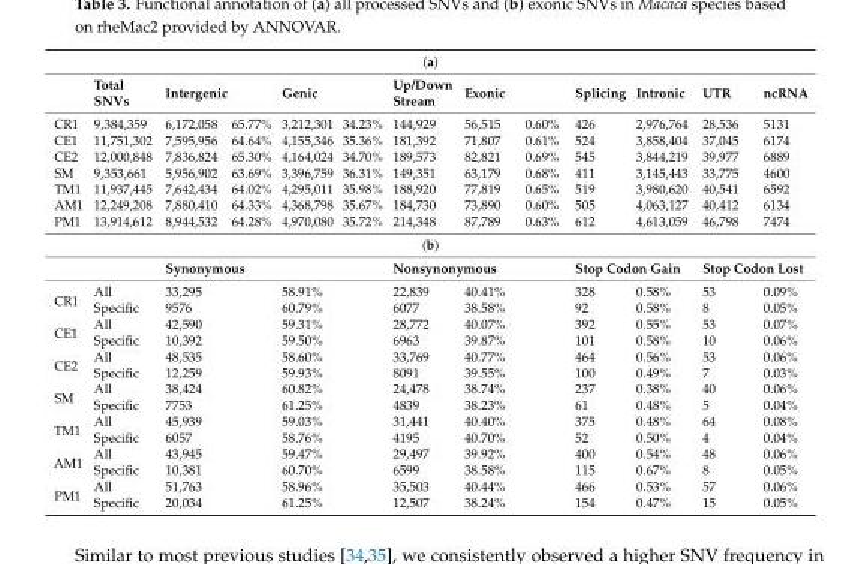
<table><tbody><tr><td colspan="13">(a)</td></tr><tr><td></td><td>Total SNVs</td><td colspan="2">Intergenic</td><td colspan="2">Genic</td><td>Up/Down Stream</td><td colspan="2">Exonic</td><td>Splicing</td><td>Intronic</td><td>UTR</td><td>ncRNA</td></tr><tr><td>CR1</td><td>9,384,359</td><td>6,172,058</td><td>65.77%</td><td>3,212,301</td><td>34.23%</td><td>144,929</td><td>56,515</td><td>0.60%</td><td>426</td><td>2,976,764</td><td>28,536</td><td>5131</td></tr><tr><td>CE1</td><td>11,751,302</td><td>7,595,956</td><td>64.64%</td><td>4,155,346</td><td>35.36%</td><td>181,392</td><td>71,807</td><td>0.61%</td><td>524</td><td>3,858,404</td><td>37,045</td><td>6174</td></tr><tr><td>CE2</td><td>12,000,848</td><td>7,836,824</td><td>65.30%</td><td>4,164,024</td><td>34.70%</td><td>189,573</td><td>82,821</td><td>0.69%</td><td>545</td><td>3,844,219</td><td>39,977</td><td>6889</td></tr><tr><td>SM</td><td>9,353,661</td><td>5,956,902</td><td>63.69%</td><td>3,396,759</td><td>36.31%</td><td>149,351</td><td>63,179</td><td>0.68%</td><td>411</td><td>3,145,443</td><td>33,775</td><td>4600</td></tr><tr><td>TM1</td><td>11,937,445</td><td>7,642,434</td><td>64.02%</td><td>4,295,011</td><td>35.98%</td><td>188,920</td><td>77,819</td><td>0.65%</td><td>519</td><td>3,980,620</td><td>40,541</td><td>6592</td></tr><tr><td>AM1</td><td>12,249,208</td><td>7,880,410</td><td>64.33%</td><td>4,368,798</td><td>35.67%</td><td>184,730</td><td>73,890</td><td>0.60%</td><td>505</td><td>4,063,127</td><td>40,412</td><td>6134</td></tr><tr><td>PM1</td><td>13,914,612</td><td>8,944,532</td><td>64.28%</td><td>4,970,080</td><td>35.72%</td><td>214,348</td><td>87,789</td><td>0.63%</td><td>612</td><td>4,613,059</td><td>46,798</td><td>7474</td></tr><tr><td colspan="13">(b)</td></tr><tr><td colspan="2"></td><td colspan="4">Synonymous</td><td colspan="3">Nonsynonymous</td><td colspan="2">Stop Codon Gain</td><td colspan="2">Stop Codon Lost</td></tr><tr><td rowspan="2">CR1</td><td>All</td><td colspan="2">33,295</td><td colspan="2">58.91%</td><td>22,839</td><td colspan="2">40.41%</td><td>328</td><td>0.58%</td><td>53</td><td>0.09%</td></tr><tr><td>Specific</td><td colspan="2">9576</td><td colspan="2">60.79%</td><td>6077</td><td colspan="2">38.58%</td><td>92</td><td>0.58%</td><td>8</td><td>0.05%</td></tr><tr><td rowspan="2">CE1</td><td>All</td><td colspan="2">42,590</td><td colspan="2">59.31%</td><td>28,772</td><td colspan="2">40.07%</td><td>392</td><td>0.55%</td><td>53</td><td>0.07%</td></tr><tr><td>Specific</td><td colspan="2">10,392</td><td colspan="2">59.50%</td><td>6963</td><td colspan="2">39.87%</td><td>101</td><td>0.58%</td><td>10</td><td>0.06%</td></tr><tr><td rowspan="2">CE2</td><td>All</td><td colspan="2">48,535</td><td colspan="2">58.60%</td><td>33,769</td><td colspan="2">40.77%</td><td>464</td><td>0.56%</td><td>53</td><td>0.06%</td></tr><tr><td>Specific</td><td colspan="2">12,259</td><td colspan="2">59.93%</td><td>8091</td><td colspan="2">39.55%</td><td>100</td><td>0.49%</td><td>7</td><td>0.03%</td></tr><tr><td rowspan="2">SM</td><td>All</td><td colspan="2">38,424</td><td colspan="2">60.82%</td><td>24,478</td><td colspan="2">38.74%</td><td>237</td><td>0.38%</td><td>40</td><td>0.06%</td></tr><tr><td>Specific</td><td colspan="2">7753</td><td colspan="2">61.25%</td><td>4839</td><td colspan="2">38.23%</td><td>61</td><td>0.48%</td><td>5</td><td>0.04%</td></tr><tr><td rowspan="2">TM1</td><td>All</td><td colspan="2">45,939</td><td colspan="2">59.03%</td><td>31,441</td><td colspan="2">40.40%</td><td>375</td><td>0.48%</td><td>64</td><td>0.08%</td></tr><tr><td>Specific</td><td colspan="2">6057</td><td colspan="2">58.76%</td><td>4195</td><td colspan="2">40.70%</td><td>52</td><td>0.50%</td><td>4</td><td>0.04%</td></tr><tr><td rowspan="2">AM1</td><td>All</td><td colspan="2">43,945</td><td colspan="2">59.47%</td><td>29,497</td><td colspan="2">39.92%</td><td>400</td><td>0.54%</td><td>48</td><td>0.06%</td></tr><tr><td>Specific</td><td colspan="2">10,381</td><td colspan="2">60.70%</td><td>6599</td><td colspan="2">38.58%</td><td>115</td><td>0.67%</td><td>8</td><td>0.05%</td></tr><tr><td rowspan="2">PM1</td><td>All</td><td colspan="2">51,763</td><td colspan="2">58.96%</td><td>35,503</td><td colspan="2">40.44%</td><td>466</td><td>0.53%</td><td>57</td><td>0.06%</td></tr><tr><td>Specific</td><td colspan="2">20,034</td><td colspan="2">61.25%</td><td>12,507</td><td colspan="2">38.24%</td><td>154</td><td>0.47%</td><td>15</td><td>0.05%</td></tr></tbody></table>